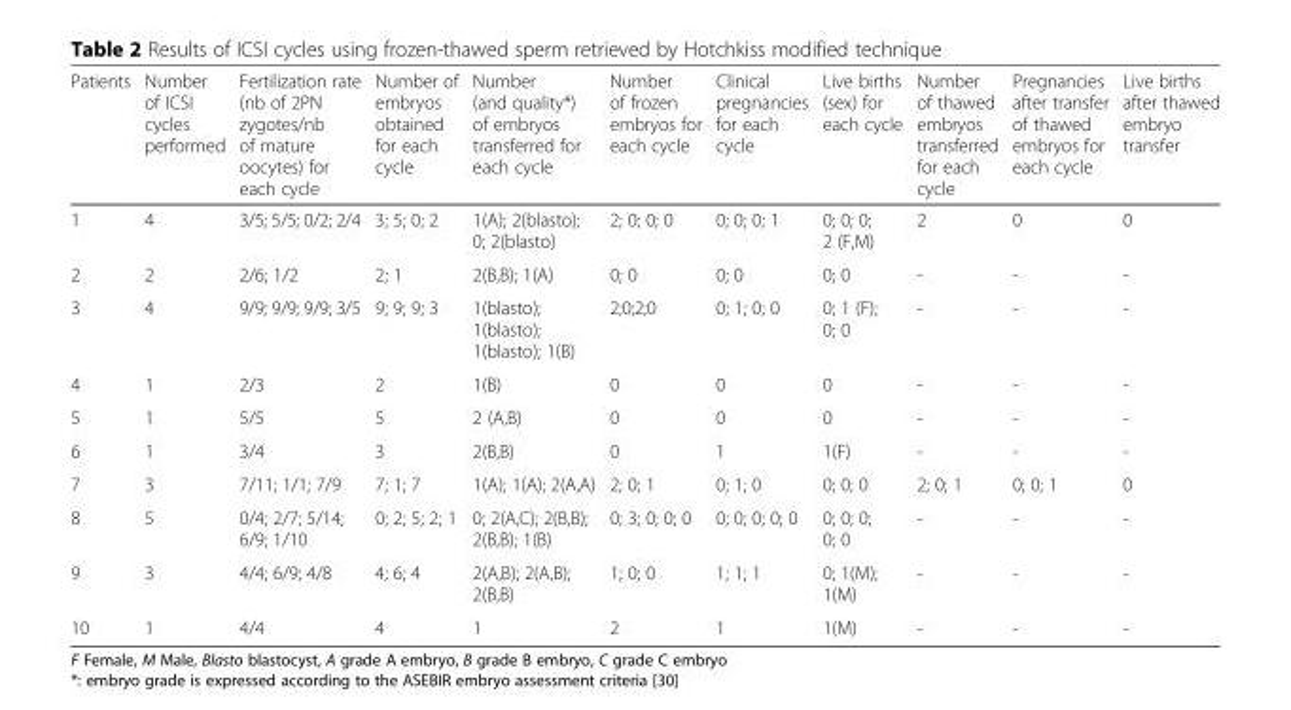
<table><thead><tr><td>Patients</td><td>Number of ICSI cycles performed</td><td>Fertilization rate (nb of 2PN zygotes/nb of mature oocytes) for each cycle</td><td>Number of embryos obtained for each cycle</td><td>Number (and quality*) of embryos transferred for each cycle</td><td>Number of frozen embryos for each cycle</td><td>Clinical pregnancies for each cycle</td><td>Live births (sex) for each cycle</td><td>Number of thawed embryos transferred for each cycle</td><td>Pregnancies after transfer of thawed embryos for each cycle</td><td>Live births after thawed embryo transfer</td></tr></thead><tbody><tr><td>1</td><td>4</td><td>3/5; 5/5; 0/2; 2/4</td><td>3; 5; 0; 2</td><td>1(A); 2(blasto); 0; 2(blasto)</td><td>2; 0; 0; 0</td><td>0; 0; 0; 1</td><td>0; 0; 0; 2 (F,M)</td><td>2</td><td>0</td><td>0</td></tr><tr><td>2</td><td>2</td><td>2/6; 1/2</td><td>2; 1</td><td>2(B,B); 1(A)</td><td>0; 0</td><td>0; 0</td><td>0; 0</td><td>-</td><td>-</td><td>-</td></tr><tr><td>3</td><td>4</td><td>9/9; 9/9; 9/9; 3/5</td><td>9; 9; 9; 3</td><td>1(blasto); 1(blasto); 1(blasto); 1(B)</td><td>2;0;2;0</td><td>0; 1; 0; 0</td><td>0; 1 (F); 0; 0</td><td>-</td><td>-</td><td>-</td></tr><tr><td>4</td><td>1</td><td>2/3</td><td>2</td><td>1(B)</td><td>0</td><td>0</td><td>0</td><td>-</td><td>-</td><td>-</td></tr><tr><td>5</td><td>1</td><td>5/5</td><td>5</td><td>2 (A,B)</td><td>0</td><td>0</td><td>0</td><td>-</td><td>-</td><td>-</td></tr><tr><td>6</td><td>1</td><td>3/4</td><td>3</td><td>2(B,B)</td><td>0</td><td>1</td><td>1(F)</td><td>-</td><td>-</td><td>-</td></tr><tr><td>7</td><td>3</td><td>7/11; 1/1; 7/9</td><td>7; 1; 7</td><td>1(A); 1(A); 2(A,A)</td><td>2; 0; 1</td><td>0; 1; 0</td><td>0; 0; 0</td><td>2; 0; 1</td><td>0; 0; 1</td><td>0</td></tr><tr><td>8</td><td>5</td><td>0/4; 2/7; 5/14; 6/9; 1/10</td><td>0; 2; 5; 2; 1</td><td>0; 2(A,C); 2(B,B); 2(B,B); 1(B)</td><td>0; 3; 0; 0; 0</td><td>0; 0; 0; 0; 0</td><td>0; 0; 0; 0; 0</td><td>-</td><td>-</td><td>-</td></tr><tr><td>9</td><td>3</td><td>4/4; 6/9; 4/8</td><td>4; 6; 4</td><td>2(A,B); 2(A,B); 2(B,B)</td><td>1; 0; 0</td><td>1; 1; 1</td><td>0; 1(M); 1(M)</td><td>-</td><td>-</td><td>-</td></tr><tr><td>10</td><td>1</td><td>4/4</td><td>4</td><td>1</td><td>2</td><td>1</td><td>1(M)</td><td>-</td><td>-</td><td>-</td></tr></tbody></table>